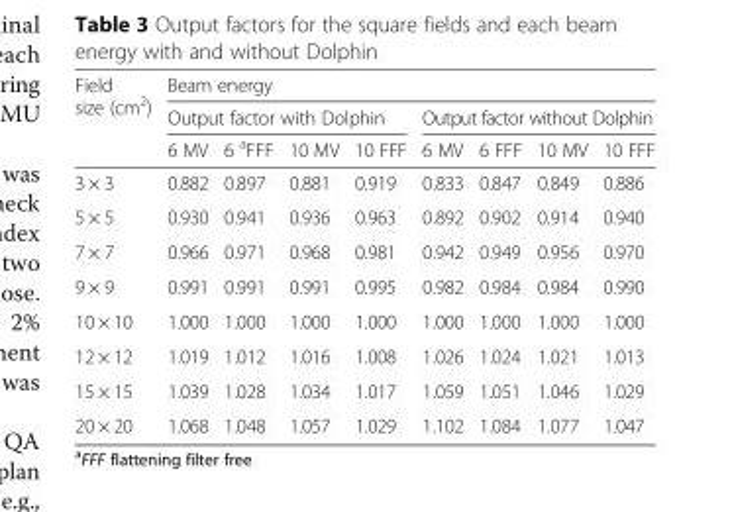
<table><thead><tr><td rowspan="3">Field size (cm<sup>2</sup>)</td><td colspan="8">Beam energy</td></tr><tr><td colspan="4">Output factor with Dolphin</td><td colspan="4">Output factor without Dolphin</td></tr><tr><td>6 MV</td><td>6 <sup>a</sup>FFF</td><td>10 MV</td><td>10 FFF</td><td>6 MV</td><td>6 FFF</td><td>10 MV</td><td>10 FFF</td></tr></thead><tbody><tr><td>3 × 3</td><td>0.882</td><td>0.897</td><td>0.881</td><td>0.919</td><td>0.833</td><td>0.847</td><td>0.849</td><td>0.886</td></tr><tr><td>5 × 5</td><td>0.930</td><td>0.941</td><td>0.936</td><td>0.963</td><td>0.892</td><td>0.902</td><td>0.914</td><td>0.940</td></tr><tr><td>7 × 7</td><td>0.966</td><td>0.971</td><td>0.968</td><td>0.981</td><td>0.942</td><td>0.949</td><td>0.956</td><td>0.970</td></tr><tr><td>9 × 9</td><td>0.991</td><td>0.991</td><td>0.991</td><td>0.995</td><td>0.982</td><td>0.984</td><td>0.984</td><td>0.990</td></tr><tr><td>10 × 10</td><td>1.000</td><td>1.000</td><td>1.000</td><td>1.000</td><td>1.000</td><td>1.000</td><td>1.000</td><td>1.000</td></tr><tr><td>12 × 12</td><td>1.019</td><td>1.012</td><td>1.016</td><td>1.008</td><td>1.026</td><td>1.024</td><td>1.021</td><td>1.013</td></tr><tr><td>15 × 15</td><td>1.039</td><td>1.028</td><td>1.034</td><td>1.017</td><td>1.059</td><td>1.051</td><td>1.046</td><td>1.029</td></tr><tr><td>20 × 20</td><td>1.068</td><td>1.048</td><td>1.057</td><td>1.029</td><td>1.102</td><td>1.084</td><td>1.077</td><td>1.047</td></tr></tbody></table>